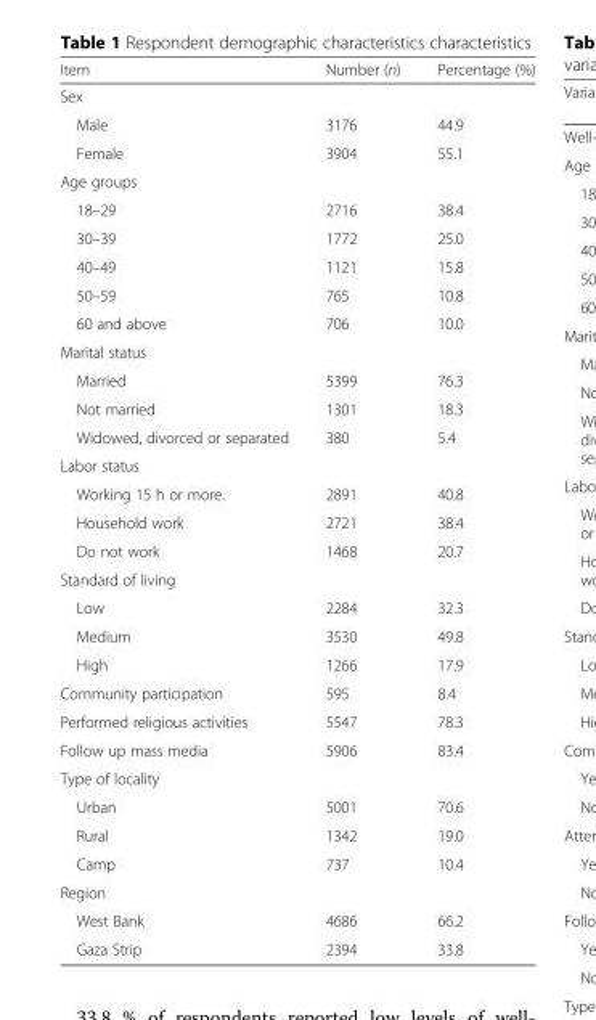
<table><thead><tr><td>Item</td><td>Number (n)</td><td>Percentage (%)</td></tr></thead><tbody><tr><td colspan="3">Sex</td></tr><tr><td>Male</td><td>3176</td><td>44.9</td></tr><tr><td>Female</td><td>3904</td><td>55.1</td></tr><tr><td colspan="3">Age groups</td></tr><tr><td>18–29</td><td>2716</td><td>38.4</td></tr><tr><td>30–39</td><td>1772</td><td>25.0</td></tr><tr><td>40–49</td><td>1121</td><td>15.8</td></tr><tr><td>50–59</td><td>765</td><td>10.8</td></tr><tr><td>60 and above</td><td>706</td><td>10.0</td></tr><tr><td colspan="3">Marital status</td></tr><tr><td>Married</td><td>5399</td><td>76.3</td></tr><tr><td>Not married</td><td>1301</td><td>18.3</td></tr><tr><td>Widowed, divorced or separated</td><td>380</td><td>5.4</td></tr><tr><td colspan="3">Labor status</td></tr><tr><td>Working 15 h or more.</td><td>2891</td><td>40.8</td></tr><tr><td>Household work</td><td>2721</td><td>38.4</td></tr><tr><td>Do not work</td><td>1468</td><td>20.7</td></tr><tr><td colspan="3">Standard of living</td></tr><tr><td>Low</td><td>2284</td><td>32.3</td></tr><tr><td>Medium</td><td>3530</td><td>49.8</td></tr><tr><td>High</td><td>1266</td><td>17.9</td></tr><tr><td>Community participation</td><td>595</td><td>8.4</td></tr><tr><td>Performed religious activities</td><td>5547</td><td>78.3</td></tr><tr><td>Follow up mass media</td><td>5906</td><td>83.4</td></tr><tr><td colspan="3">Type of locality</td></tr><tr><td>Urban</td><td>5001</td><td>70.6</td></tr><tr><td>Rural</td><td>1342</td><td>19.0</td></tr><tr><td>Camp</td><td>737</td><td>10.4</td></tr><tr><td colspan="3">Region</td></tr><tr><td>West Bank</td><td>4686</td><td>66.2</td></tr><tr><td>Gaza Strip</td><td>2394</td><td>33.8</td></tr></tbody></table>